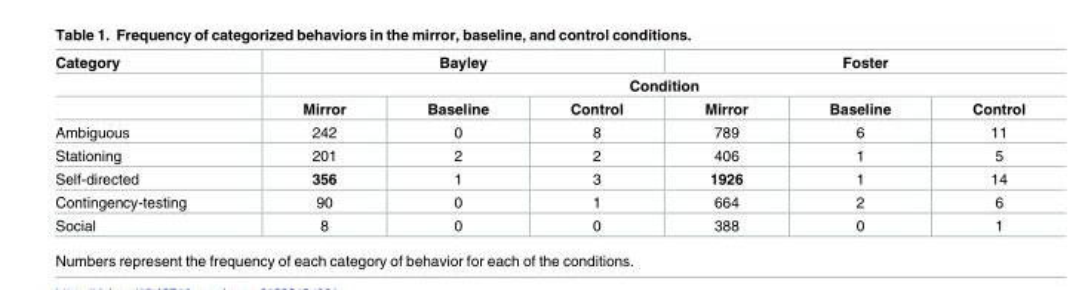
<table><thead><tr><td rowspan="3">Category</td><td colspan="3">Bayley</td><td colspan="3">Foster</td></tr><tr><td colspan="6">Condition</td></tr><tr><td>Mirror</td><td>Baseline</td><td>Control</td><td>Mirror</td><td>Baseline</td><td>Control</td></tr></thead><tbody><tr><td>Ambiguous</td><td>242</td><td>0</td><td>8</td><td>789</td><td>6</td><td>11</td></tr><tr><td>Stationing</td><td>201</td><td>2</td><td>2</td><td>406</td><td>1</td><td>5</td></tr><tr><td>Self-directed</td><td>356</td><td>1</td><td>3</td><td>1926</td><td>1</td><td>14</td></tr><tr><td>Contingency-testing</td><td>90</td><td>0</td><td>1</td><td>664</td><td>2</td><td>6</td></tr><tr><td>Social</td><td>8</td><td>0</td><td>0</td><td>388</td><td>0</td><td>1</td></tr></tbody></table>